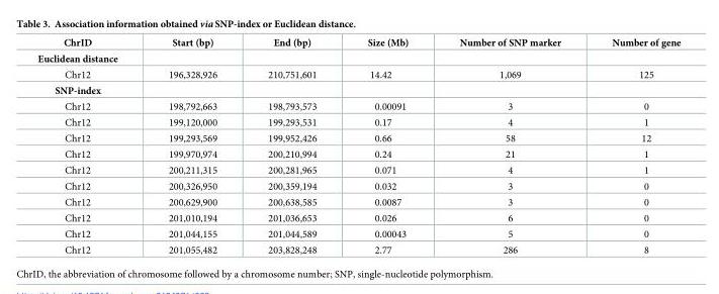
<table><thead><tr><td>ChrID</td><td>Start (bp)</td><td>End (bp)</td><td>Size (Mb)</td><td>Number of SNP marker</td><td>Number of gene</td></tr></thead><tbody><tr><td colspan="6">Euclidean distance</td></tr><tr><td>Chr12</td><td>196,328,926</td><td>210,751,601</td><td>14.42</td><td>1,069</td><td>125</td></tr><tr><td colspan="6">SNP-index</td></tr><tr><td>Chr12</td><td>198,792,663</td><td>198,793,573</td><td>0.00091</td><td>3</td><td>0</td></tr><tr><td>Chr12</td><td>199,120,000</td><td>199,293,531</td><td>0.17</td><td>4</td><td>1</td></tr><tr><td>Chr12</td><td>199,293,569</td><td>199,952,426</td><td>0.66</td><td>58</td><td>12</td></tr><tr><td>Chr12</td><td>199,970,974</td><td>200,210,994</td><td>0.24</td><td>21</td><td>1</td></tr><tr><td>Chr12</td><td>200,211,315</td><td>200,281,965</td><td>0.071</td><td>4</td><td>1</td></tr><tr><td>Chr12</td><td>200,326,950</td><td>200,359,194</td><td>0.032</td><td>3</td><td>0</td></tr><tr><td>Chr12</td><td>200,629,900</td><td>200,638,585</td><td>0.0087</td><td>3</td><td>0</td></tr><tr><td>Chr12</td><td>201,010,194</td><td>201,036,653</td><td>0.026</td><td>6</td><td>0</td></tr><tr><td>Chr12</td><td>201,044,155</td><td>201,044,589</td><td>0.00043</td><td>5</td><td>0</td></tr><tr><td>Chr12</td><td>201,055,482</td><td>203,828,248</td><td>2.77</td><td>286</td><td>8</td></tr></tbody></table>